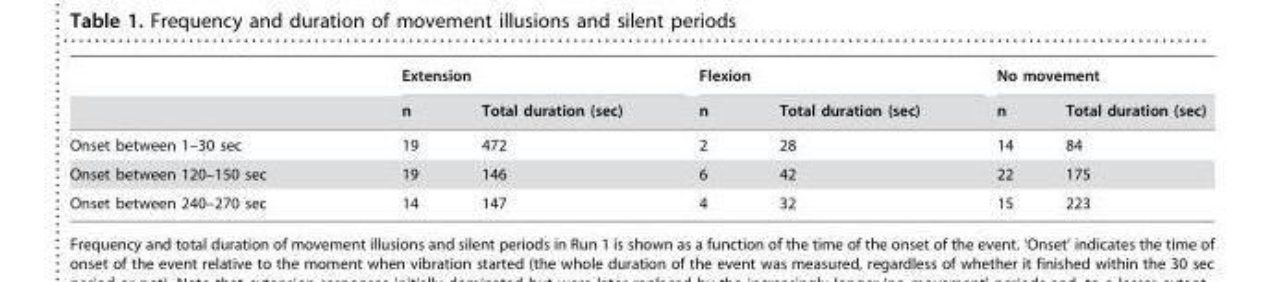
<table><thead><tr><td rowspan="2"></td><td colspan="2">Extension</td><td colspan="2">Flexion</td><td colspan="2">No movement</td></tr><tr><td>n</td><td>Total duration (sec)</td><td>n</td><td>Total duration (sec)</td><td>n</td><td>Total duration (sec)</td></tr></thead><tbody><tr><td>Onset between 1–30 sec</td><td>19</td><td>472</td><td>2</td><td>28</td><td>14</td><td>84</td></tr><tr><td>Onset between 120–150 sec</td><td>19</td><td>146</td><td>6</td><td>42</td><td>22</td><td>175</td></tr><tr><td>Onset between 240–270 sec</td><td>14</td><td>147</td><td>4</td><td>32</td><td>15</td><td>223</td></tr></tbody></table>